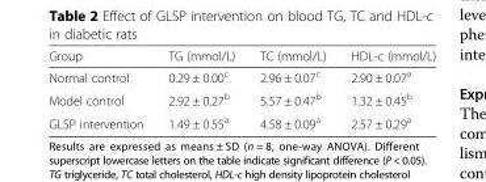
<table><thead><tr><td>Group</td><td>TG (mmol/L)</td><td>TC (mmol/L)</td><td>HDL-c (mmol/L)</td></tr></thead><tbody><tr><td>Normal control</td><td>0.29 ± 0.00<sup>c</sup></td><td>2.96 ± 0.07<sup>c</sup></td><td>2.90 ± 0.07<sup>a</sup></td></tr><tr><td>Model control</td><td>2.92 ± 0.27<sup>b</sup></td><td>5.57 ± 0.47<sup>b</sup></td><td>1.32 ± 0.45<sup>b</sup></td></tr><tr><td>GLSP intervention</td><td>1.49 ± 0.55<sup>a</sup></td><td>4.58 ± 0.09<sup>a</sup></td><td>2.57 ± 0.29<sup>a</sup></td></tr></tbody></table>